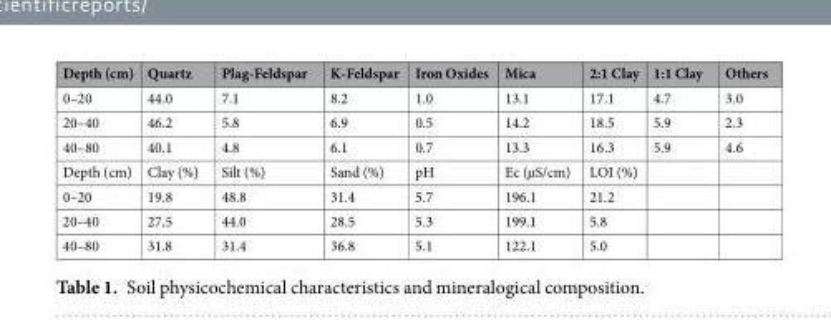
<table><thead><tr><td>Depth (cm)</td><td>Quartz</td><td>Plag-Feldspar</td><td>K-Feldspar</td><td>Iron Oxides</td><td>Mica</td><td>2:1 Clay</td><td>1:1 Clay</td><td>Others</td></tr></thead><tbody><tr><td>0–20</td><td>44.0</td><td>7.1</td><td>8.2</td><td>1.0</td><td>13.1</td><td>17.1</td><td>4.7</td><td>3.0</td></tr><tr><td>20–40</td><td>46.2</td><td>5.8</td><td>6.9</td><td>0.5</td><td>14.2</td><td>18.5</td><td>5.9</td><td>2.3</td></tr><tr><td>40–80</td><td>40.1</td><td>4.8</td><td>6.1</td><td>0.7</td><td>13.3</td><td>16.3</td><td>5.9</td><td>4.6</td></tr><tr><td>Depth (cm)</td><td>Clay (%)</td><td>Silt (%)</td><td>Sand (%)</td><td>pH</td><td>Ec (µS/cm)</td><td>LOI (%)</td><td></td><td></td></tr><tr><td>0–20</td><td>19.8</td><td>48.8</td><td>31.4</td><td>5.7</td><td>196.1</td><td>21.2</td><td></td><td></td></tr><tr><td>20–40</td><td>27.5</td><td>44.0</td><td>28.5</td><td>5.3</td><td>199.1</td><td>5.8</td><td></td><td></td></tr><tr><td>40–80</td><td>31.8</td><td>31.4</td><td>36.8</td><td>5.1</td><td>122.1</td><td>5.0</td><td></td><td></td></tr></tbody></table>